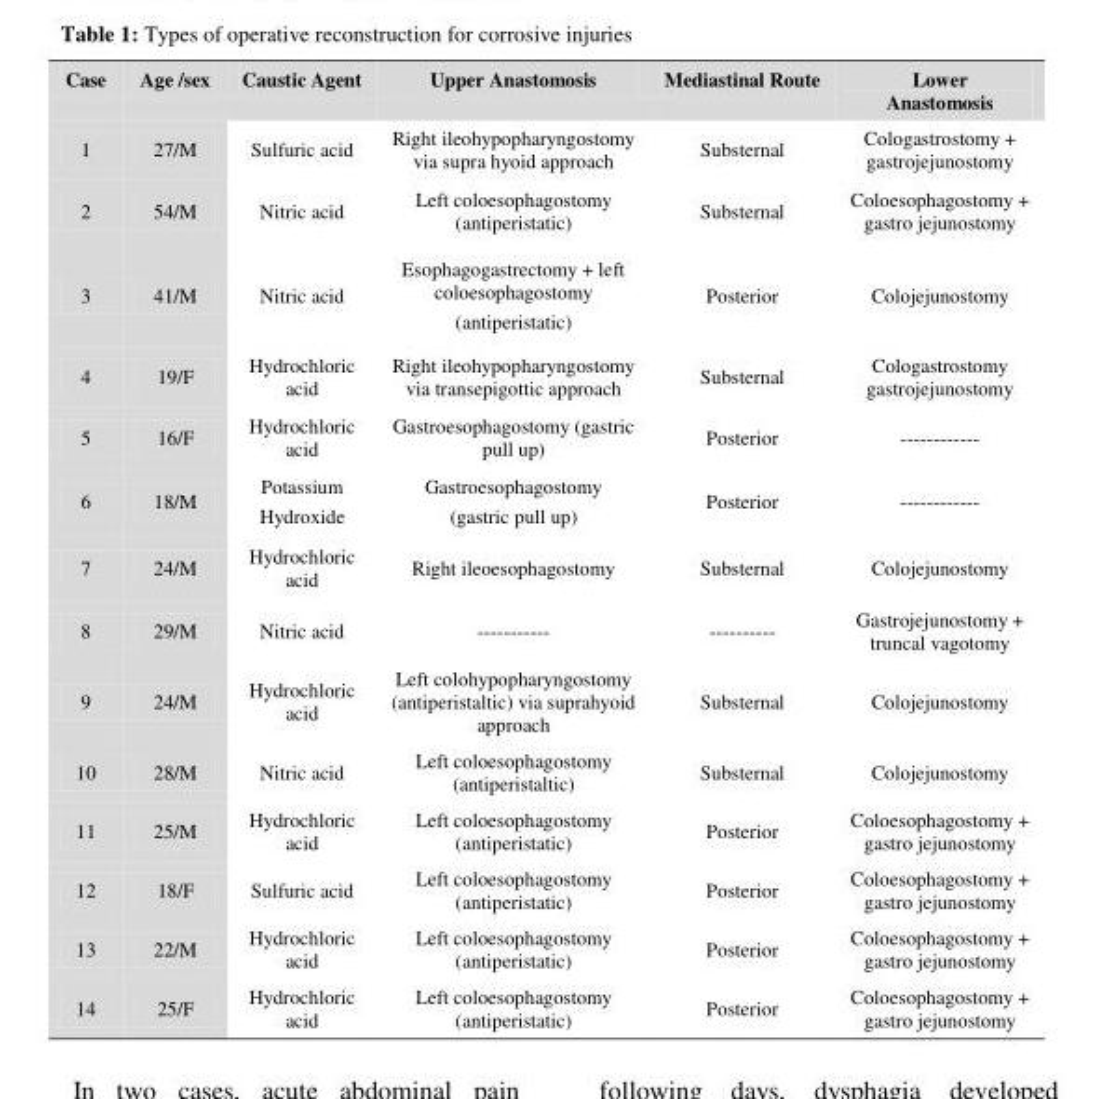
<table><thead><tr><td>Case</td><td>Age /sex</td><td>Caustic Agent</td><td>Upper Anastomosis</td><td>Mediastinal Route</td><td>Lower Anastomosis</td></tr></thead><tbody><tr><td>1</td><td>27/M</td><td>Sulfuric acid</td><td>Right ileohypopharyngostomy via supra hyoid approach</td><td>Substernal</td><td>Cologastrostomy + gastrojejunostomy</td></tr><tr><td rowspan="2">2 3</td><td>54/M</td><td>Nitric acid</td><td>Left coloesophagostomy (antiperistatic)</td><td>Substernal</td><td>Coloesophagostomy + gastro jejunostomy</td></tr><tr><td>41/M</td><td>Nitric acid</td><td>Esophagogastrectomy + left coloesophagostomy (antiperistatic)</td><td>Posterior</td><td>Colojejunostomy</td></tr><tr><td>4</td><td>19/F</td><td>Hydrochloric acid</td><td>Right ileohypopharyngostomy via transepigottic approach</td><td>Substernal</td><td>Cologastrostomy gastrojejunostomy</td></tr><tr><td>5</td><td>16/F</td><td>Hydrochloric acid</td><td>Gastroesophagostomy (gastric pull up)</td><td>Posterior</td><td>------------</td></tr><tr><td>6</td><td>18/M</td><td>Potassium Hydroxide</td><td>Gastroesophagostomy (gastric pull up)</td><td>Posterior</td><td>------------</td></tr><tr><td>7</td><td>24/M</td><td>Hydrochloric acid</td><td>Right ileoesophagostomy</td><td>Substernal</td><td>Colojejunostomy</td></tr><tr><td>8</td><td>29/M</td><td>Nitric acid</td><td>-----------</td><td>----------</td><td>Gastrojejunostomy + truncal vagotomy</td></tr><tr><td>9</td><td>24/M</td><td>Hydrochloric acid</td><td>Left colohypopharyngostomy (antiperistaltic) via suprahyoid approach</td><td>Substernal</td><td>Colojejunostomy</td></tr><tr><td>10</td><td>28/M</td><td>Nitric acid</td><td>Left coloesophagostomy (antiperistaltic)</td><td>Substernal</td><td>Colojejunostomy</td></tr><tr><td>11</td><td>25/M</td><td>Hydrochloric acid</td><td>Left coloesophagostomy (antiperistatic)</td><td>Posterior</td><td>Coloesophagostomy + gastro jejunostomy</td></tr><tr><td>12</td><td>18/F</td><td>Sulfuric acid</td><td>Left coloesophagostomy (antiperistatic)</td><td>Posterior</td><td>Coloesophagostomy + gastro jejunostomy</td></tr><tr><td>13</td><td>22/M</td><td>Hydrochloric acid</td><td>Left coloesophagostomy (antiperistatic)</td><td>Posterior</td><td>Coloesophagostomy + gastro jejunostomy</td></tr><tr><td>14</td><td>25/F</td><td>Hydrochloric acid</td><td>Left coloesophagostomy (antiperistatic)</td><td>Posterior</td><td>Coloesophagostomy + gastro jejunostomy</td></tr></tbody></table>